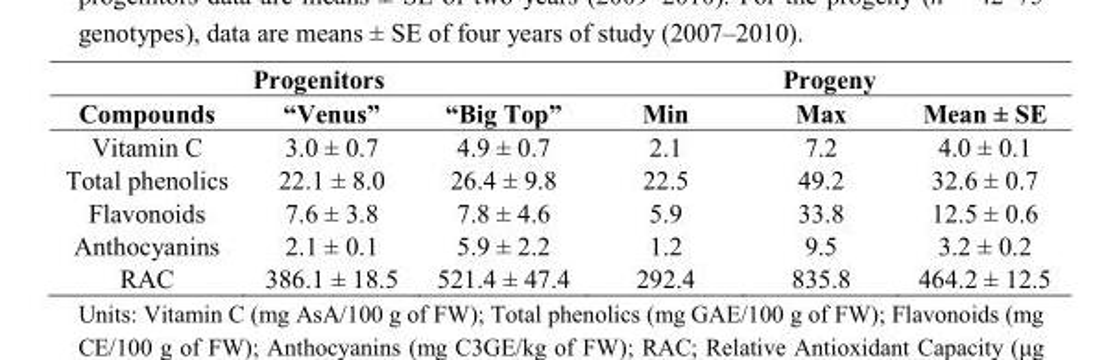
<table><thead><tr><td colspan="3">Progenitors</td><td colspan="3">Progeny</td></tr><tr><td>Compounds</td><td>“Venus”</td><td>“Big Top”</td><td>Min</td><td>Max</td><td>Mean ± SE</td></tr></thead><tbody><tr><td>Vitamin C</td><td>3.0 ± 0.7</td><td>4.9 ± 0.7</td><td>2.1</td><td>7.2</td><td>4.0 ± 0.1</td></tr><tr><td>Total phenolics</td><td>22.1 ± 8.0</td><td>26.4 ± 9.8</td><td>22.5</td><td>49.2</td><td>32.6 ± 0.7</td></tr><tr><td>Flavonoids</td><td>7.6 ± 3.8</td><td>7.8 ± 4.6</td><td>5.9</td><td>33.8</td><td>12.5 ± 0.6</td></tr><tr><td>Anthocyanins</td><td>2.1 ± 0.1</td><td>5.9 ± 2.2</td><td>1.2</td><td>9.5</td><td>3.2 ± 0.2</td></tr><tr><td>RAC</td><td>386.1 ± 18.5</td><td>521.4 ± 47.4</td><td>292.4</td><td>835.8</td><td>464.2 ± 12.5</td></tr></tbody></table>